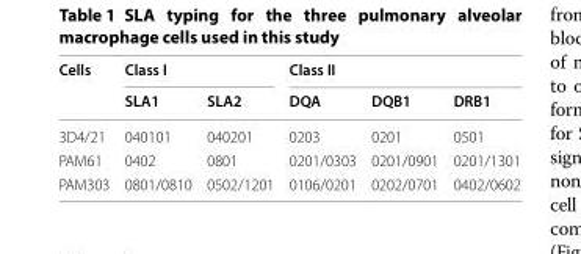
<table><thead><tr><td rowspan="2">Cells</td><td colspan="2">Class I</td><td colspan="3">Class II</td></tr><tr><td>SLA1</td><td>SLA2</td><td>DQA</td><td>DQB1</td><td>DRB1</td></tr></thead><tbody><tr><td>3D4/21</td><td>040101</td><td>040201</td><td>0203</td><td>0201</td><td>0501</td></tr><tr><td>PAM61</td><td>0402</td><td>0801</td><td>0201/0303</td><td>0201/0901</td><td>0201/1301</td></tr><tr><td>PAM303</td><td>0801/0810</td><td>0502/1201</td><td>0106/0201</td><td>0202/0701</td><td>0402/0602</td></tr></tbody></table>